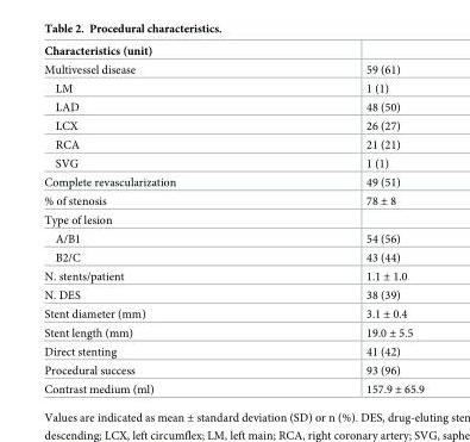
<table><thead><tr><td>Characteristics (unit)</td><td></td></tr></thead><tbody><tr><td>Multivessel disease</td><td>59 (61)</td></tr><tr><td>LM</td><td>1 (1)</td></tr><tr><td>LAD</td><td>48 (50)</td></tr><tr><td>LCX</td><td>26 (27)</td></tr><tr><td>RCA</td><td>21 (21)</td></tr><tr><td>SVG</td><td>1 (1)</td></tr><tr><td>Complete revascularization</td><td>49 (51)</td></tr><tr><td>% of stenosis</td><td>78 ± 8</td></tr><tr><td colspan="2">Type of lesion</td></tr><tr><td>A/B1</td><td>54 (56)</td></tr><tr><td>B2/C</td><td>43 (44)</td></tr><tr><td>N. stents/patient</td><td>1.1 ± 1.0</td></tr><tr><td>N. DES</td><td>38 (39)</td></tr><tr><td>Stent diameter (mm)</td><td>3.1 ± 0.4</td></tr><tr><td>Stent length (mm)</td><td>19.0 ± 5.5</td></tr><tr><td>Direct stenting</td><td>41 (42)</td></tr><tr><td>Procedural success</td><td>93 (96)</td></tr><tr><td>Contrast medium (ml)</td><td>157.9 ± 65.9</td></tr></tbody></table>